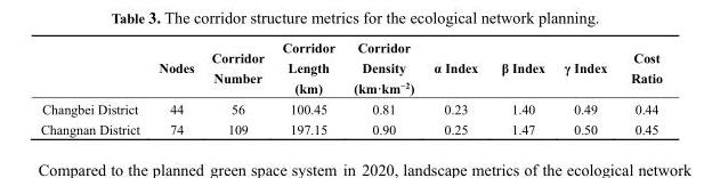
<table><thead><tr><td></td><td>Nodes</td><td>Corridor Number</td><td>Corridor Length (km)</td><td>Corridor Density (km·km<sup>−2</sup>)</td><td>α Index</td><td>β Index</td><td>γ Index</td><td>Cost Ratio</td></tr></thead><tbody><tr><td>Changbei District</td><td>44</td><td>56</td><td>100.45</td><td>0.81</td><td>0.23</td><td>1.40</td><td>0.49</td><td>0.44</td></tr><tr><td>Changnan District</td><td>74</td><td>109</td><td>197.15</td><td>0.90</td><td>0.25</td><td>1.47</td><td>0.50</td><td>0.45</td></tr></tbody></table>